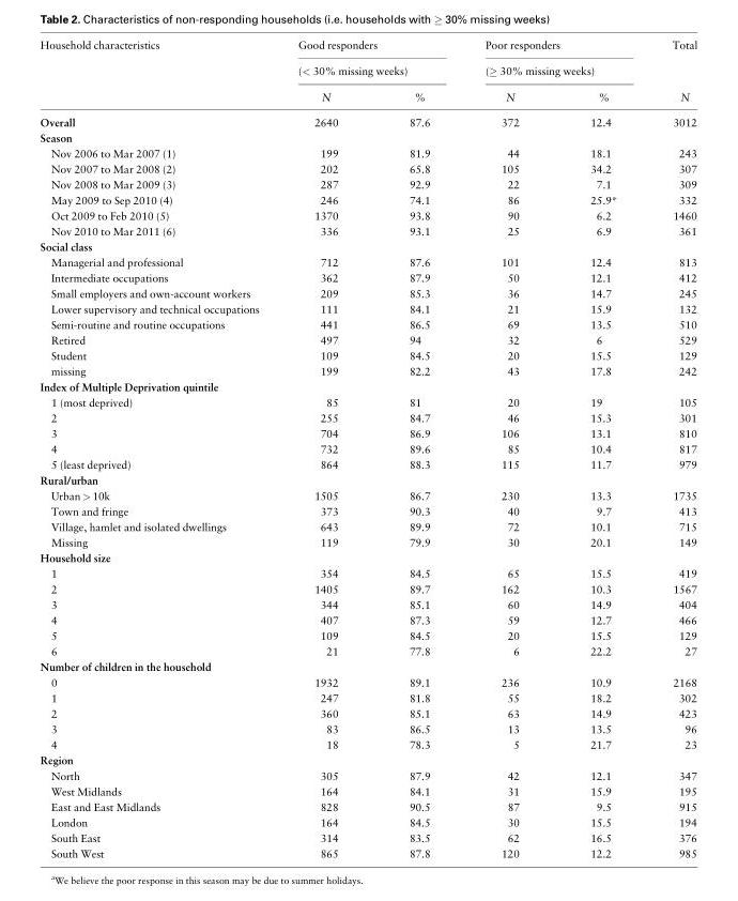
<table><thead><tr><td rowspan="3">Household characteristics</td><td rowspan="2" colspan="2">Good responders (&lt; 30% missing weeks)</td><td rowspan="2" colspan="2">Poor responders (≥ 30% missing weeks)</td><td rowspan="3">Total N</td></tr><tr></tr><tr><td>N</td><td>%</td><td>N</td><td>%</td></tr></thead><tbody><tr><td>Overall</td><td>2640</td><td>87.6</td><td>372</td><td>12.4</td><td>3012</td></tr><tr><td colspan="6">Season</td></tr><tr><td>Nov 2006 to Mar 2007 (1)</td><td>199</td><td>81.9</td><td>44</td><td>18.1</td><td>243</td></tr><tr><td>Nov 2007 to Mar 2008 (2)</td><td>202</td><td>65.8</td><td>105</td><td>34.2</td><td>307</td></tr><tr><td>Nov 2008 to Mar 2009 (3)</td><td>287</td><td>92.9</td><td>22</td><td>7.1</td><td>309</td></tr><tr><td>May 2009 to Sep 2010 (4)</td><td>246</td><td>74.1</td><td>86</td><td>25.9*</td><td>332</td></tr><tr><td>Oct 2009 to Feb 2010 (5)</td><td>1370</td><td>93.8</td><td>90</td><td>6.2</td><td>1460</td></tr><tr><td>Nov 2010 to Mar 2011 (6)</td><td>336</td><td>93.1</td><td>25</td><td>6.9</td><td>361</td></tr><tr><td colspan="6">Social class</td></tr><tr><td>Managerial and professional</td><td>712</td><td>87.6</td><td>101</td><td>12.4</td><td>813</td></tr><tr><td>Intermediate occupations</td><td>362</td><td>87.9</td><td>50</td><td>12.1</td><td>412</td></tr><tr><td>Small employers and own-account workers</td><td>209</td><td>85.3</td><td>36</td><td>14.7</td><td>245</td></tr><tr><td>Lower supervisory and technical occupations</td><td>111</td><td>84.1</td><td>21</td><td>15.9</td><td>132</td></tr><tr><td>Semi-routine and routine occupations</td><td>441</td><td>86.5</td><td>69</td><td>13.5</td><td>510</td></tr><tr><td>Retired</td><td>497</td><td>94</td><td>32</td><td>6</td><td>529</td></tr><tr><td>Student</td><td>109</td><td>84.5</td><td>20</td><td>15.5</td><td>129</td></tr><tr><td>missing</td><td>199</td><td>82.2</td><td>43</td><td>17.8</td><td>242</td></tr><tr><td colspan="6">Index of Multiple Deprivation quintile</td></tr><tr><td>1 (most deprived)</td><td>85</td><td>81</td><td>20</td><td>19</td><td>105</td></tr><tr><td>2</td><td>255</td><td>84.7</td><td>46</td><td>15.3</td><td>301</td></tr><tr><td>3</td><td>704</td><td>86.9</td><td>106</td><td>13.1</td><td>810</td></tr><tr><td>4</td><td>732</td><td>89.6</td><td>85</td><td>10.4</td><td>817</td></tr><tr><td>5 (least deprived)</td><td>864</td><td>88.3</td><td>115</td><td>11.7</td><td>979</td></tr><tr><td colspan="6">Rural/urban</td></tr><tr><td>Urban &gt; 10k</td><td>1505</td><td>86.7</td><td>230</td><td>13.3</td><td>1735</td></tr><tr><td>Town and fringe</td><td>373</td><td>90.3</td><td>40</td><td>9.7</td><td>413</td></tr><tr><td>Village, hamlet and isolated dwellings</td><td>643</td><td>89.9</td><td>72</td><td>10.1</td><td>715</td></tr><tr><td>Missing</td><td>119</td><td>79.9</td><td>30</td><td>20.1</td><td>149</td></tr><tr><td colspan="6">Household size</td></tr><tr><td>1</td><td>354</td><td>84.5</td><td>65</td><td>15.5</td><td>419</td></tr><tr><td>2</td><td>1405</td><td>89.7</td><td>162</td><td>10.3</td><td>1567</td></tr><tr><td>3</td><td>344</td><td>85.1</td><td>60</td><td>14.9</td><td>404</td></tr><tr><td>4</td><td>407</td><td>87.3</td><td>59</td><td>12.7</td><td>466</td></tr><tr><td>5</td><td>109</td><td>84.5</td><td>20</td><td>15.5</td><td>129</td></tr><tr><td>6</td><td>21</td><td>77.8</td><td>6</td><td>22.2</td><td>27</td></tr><tr><td colspan="6">Number of children in the household</td></tr><tr><td>0</td><td>1932</td><td>89.1</td><td>236</td><td>10.9</td><td>2168</td></tr><tr><td>1</td><td>247</td><td>81.8</td><td>55</td><td>18.2</td><td>302</td></tr><tr><td>2</td><td>360</td><td>85.1</td><td>63</td><td>14.9</td><td>423</td></tr><tr><td>3</td><td>83</td><td>86.5</td><td>13</td><td>13.5</td><td>96</td></tr><tr><td>4</td><td>18</td><td>78.3</td><td>5</td><td>21.7</td><td>23</td></tr><tr><td colspan="6">Region</td></tr><tr><td>North</td><td>305</td><td>87.9</td><td>42</td><td>12.1</td><td>347</td></tr><tr><td>West Midlands</td><td>164</td><td>84.1</td><td>31</td><td>15.9</td><td>195</td></tr><tr><td>East and East Midlands</td><td>828</td><td>90.5</td><td>87</td><td>9.5</td><td>915</td></tr><tr><td>London</td><td>164</td><td>84.5</td><td>30</td><td>15.5</td><td>194</td></tr><tr><td>South East</td><td>314</td><td>83.5</td><td>62</td><td>16.5</td><td>376</td></tr><tr><td>South West</td><td>865</td><td>87.8</td><td>120</td><td>12.2</td><td>985</td></tr></tbody></table>